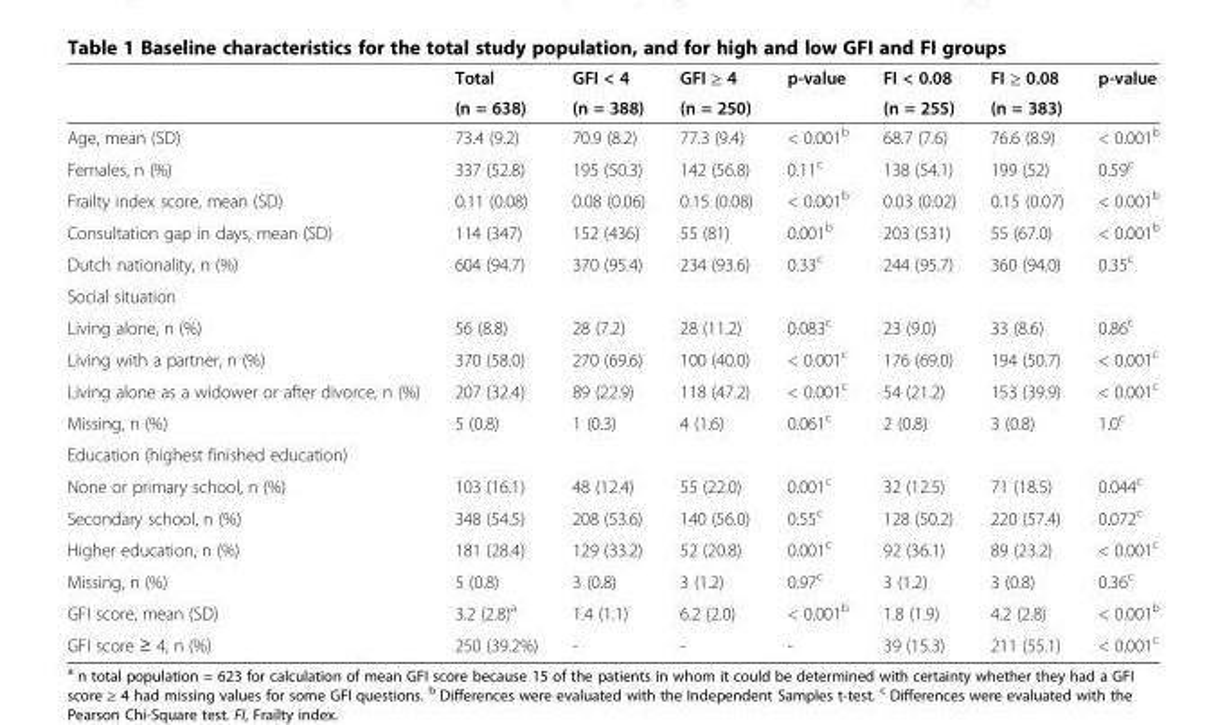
<table><thead><tr><td rowspan="2"></td><td rowspan="2">Total (n = 638)</td><td rowspan="2">GFI &lt; 4 (n = 388)</td><td rowspan="2">GFI ≥ 4 (n = 250)</td><td rowspan="2">p-value</td><td rowspan="2">FI &lt; 0.08 (n = 255)</td><td rowspan="2">FI ≥ 0.08 (n = 383)</td><td rowspan="2">p-value</td></tr><tr></tr></thead><tbody><tr><td>Age, mean (SD)</td><td>73.4 (9.2)</td><td>70.9 (8.2)</td><td>77.3 (9.4)</td><td>&lt; 0.001<sup>b</sup></td><td>68.7 (7.6)</td><td>76.6 (8.9)</td><td>&lt; 0.001<sup>b</sup></td></tr><tr><td>Females, n (%)</td><td>337 (52.8)</td><td>195 (50.3)</td><td>142 (56.8)</td><td>0.11<sup>c</sup></td><td>138 (54.1)</td><td>199 (52)</td><td>0.59<sup>c</sup></td></tr><tr><td>Frailty index score, mean (SD)</td><td>0.11 (0.08)</td><td>0.08 (0.06)</td><td>0.15 (0.08)</td><td>&lt; 0.001<sup>b</sup></td><td>0.03 (0.02)</td><td>0.15 (0.07)</td><td>&lt; 0.001<sup>b</sup></td></tr><tr><td>Consultation gap in days, mean (SD)</td><td>114 (347)</td><td>152 (436)</td><td>55 (81)</td><td>0.001<sup>b</sup></td><td>203 (531)</td><td>55 (67.0)</td><td>&lt; 0.001<sup>b</sup></td></tr><tr><td>Dutch nationality, n (%)</td><td>604 (94.7)</td><td>370 (95.4)</td><td>234 (93.6)</td><td>0.33<sup>c</sup></td><td>244 (95.7)</td><td>360 (94.0)</td><td>0.35<sup>c</sup></td></tr><tr><td colspan="8">Social situation</td></tr><tr><td>Living alone, n (%)</td><td>56 (8.8)</td><td>28 (7.2)</td><td>28 (11.2)</td><td>0.083<sup>c</sup></td><td>23 (9.0)</td><td>33 (8.6)</td><td>0.86<sup>c</sup></td></tr><tr><td>Living with a partner, n (%)</td><td>370 (58.0)</td><td>270 (69.6)</td><td>100 (40.0)</td><td>&lt; 0.001<sup>c</sup></td><td>176 (69.0)</td><td>194 (50.7)</td><td>&lt; 0.001<sup>c</sup></td></tr><tr><td>Living alone as a widower or after divorce, n (%)</td><td>207 (32.4)</td><td>89 (22.9)</td><td>118 (47.2)</td><td>&lt; 0.001<sup>c</sup></td><td>54 (21.2)</td><td>153 (39.9)</td><td>&lt; 0.001<sup>c</sup></td></tr><tr><td>Missing, n (%)</td><td>5 (0.8)</td><td>1 (0.3)</td><td>4 (1.6)</td><td>0.061<sup>c</sup></td><td>2 (0.8)</td><td>3 (0.8)</td><td>1.0<sup>c</sup></td></tr><tr><td colspan="8">Education (highest finished education)</td></tr><tr><td>None or primary school, n (%)</td><td>103 (16.1)</td><td>48 (12.4)</td><td>55 (22.0)</td><td>0.001<sup>c</sup></td><td>32 (12.5)</td><td>71 (18.5)</td><td>0.044<sup>c</sup></td></tr><tr><td>Secondary school, n (%)</td><td>348 (54.5)</td><td>208 (53.6)</td><td>140 (56.0)</td><td>0.55<sup>c</sup></td><td>128 (50.2)</td><td>220 (57.4)</td><td>0.072<sup>c</sup></td></tr><tr><td>Higher education, n (%)</td><td>181 (28.4)</td><td>129 (33.2)</td><td>52 (20.8)</td><td>0.001<sup>c</sup></td><td>92 (36.1)</td><td>89 (23.2)</td><td>&lt; 0.001<sup>c</sup></td></tr><tr><td>Missing, n (%)</td><td>5 (0.8)</td><td>3 (0.8)</td><td>3 (1.2)</td><td>0.97<sup>c</sup></td><td>3 (1.2)</td><td>3 (0.8)</td><td>0.36<sup>c</sup></td></tr><tr><td>GFI score, mean (SD)</td><td>3.2 (2.8)<sup>a</sup></td><td>1.4 (1.1)</td><td>6.2 (2.0)</td><td>&lt; 0.001<sup>b</sup></td><td>1.8 (1.9)</td><td>4.2 (2.8)</td><td>&lt; 0.001<sup>b</sup></td></tr><tr><td>GFI score ≥ 4, n (%)</td><td>250 (39.2%)</td><td>-</td><td>-</td><td>-</td><td>39 (15.3)</td><td>211 (55.1)</td><td>&lt; 0.001<sup>c</sup></td></tr></tbody></table>